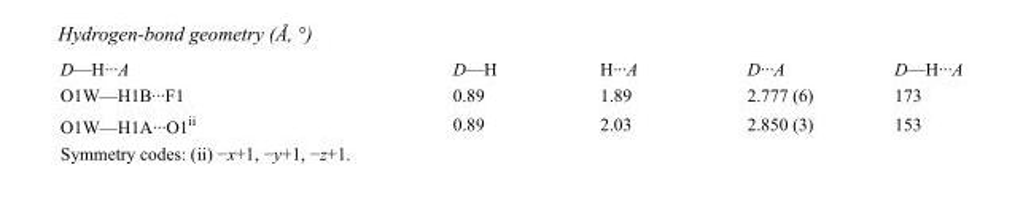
<table><tbody><tr><td>D—H···A</td><td>D—H</td><td>H···A</td><td>D···A</td><td>D—H···A</td></tr><tr><td>O1W—H1B···F1</td><td>0.89</td><td>1.89</td><td>2.777 (6)</td><td>173</td></tr><tr><td>O1W—H1A···O1<sup>ii</sup></td><td>0.89</td><td>2.03</td><td>2.850 (3)</td><td>153</td></tr></tbody></table>